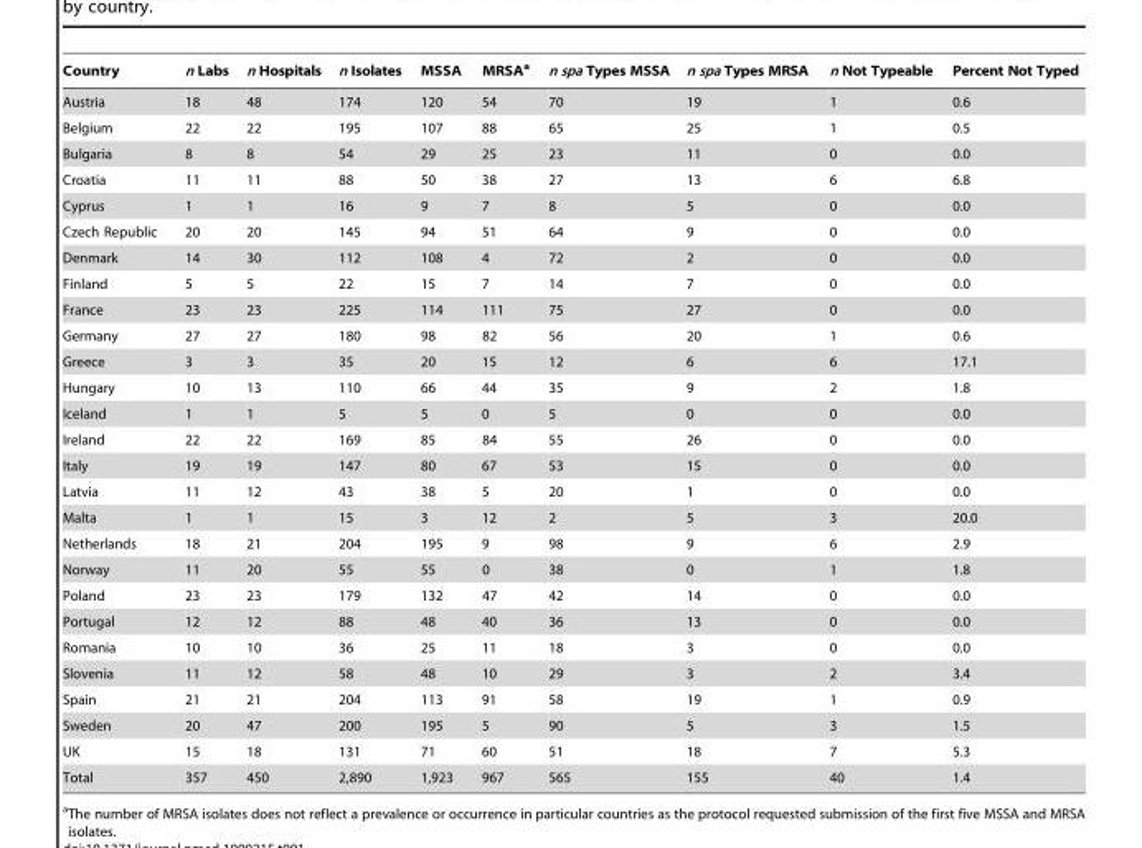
<table><thead><tr><td>Country</td><td>n Labs</td><td>n Hospitals</td><td>n Isolates</td><td>MSSA</td><td>MRSA<sup>a</sup></td><td>n spa Types MSSA</td><td>n spa Types MRSA</td><td>n Not Typeable</td><td>Percent Not Typed</td></tr></thead><tbody><tr><td>Austria</td><td>18</td><td>48</td><td>174</td><td>120</td><td>54</td><td>70</td><td>19</td><td>1</td><td>0.6</td></tr><tr><td>Belgium</td><td>22</td><td>22</td><td>195</td><td>107</td><td>88</td><td>65</td><td>25</td><td>1</td><td>0.5</td></tr><tr><td>Bulgaria</td><td>8</td><td>8</td><td>54</td><td>29</td><td>25</td><td>23</td><td>11</td><td>0</td><td>0.0</td></tr><tr><td>Croatia</td><td>11</td><td>11</td><td>88</td><td>50</td><td>38</td><td>27</td><td>13</td><td>6</td><td>6.8</td></tr><tr><td>Cyprus</td><td>1</td><td>1</td><td>16</td><td>9</td><td>7</td><td>8</td><td>5</td><td>0</td><td>0.0</td></tr><tr><td>Czech Republic</td><td>20</td><td>20</td><td>145</td><td>94</td><td>51</td><td>64</td><td>9</td><td>0</td><td>0.0</td></tr><tr><td>Denmark</td><td>14</td><td>30</td><td>112</td><td>108</td><td>4</td><td>72</td><td>2</td><td>0</td><td>0.0</td></tr><tr><td>Finland</td><td>5</td><td>5</td><td>22</td><td>15</td><td>7</td><td>14</td><td>7</td><td>0</td><td>0.0</td></tr><tr><td>France</td><td>23</td><td>23</td><td>225</td><td>114</td><td>111</td><td>75</td><td>27</td><td>0</td><td>0.0</td></tr><tr><td>Germany</td><td>27</td><td>27</td><td>180</td><td>98</td><td>82</td><td>56</td><td>20</td><td>1</td><td>0.6</td></tr><tr><td>Greece</td><td>3</td><td>3</td><td>35</td><td>20</td><td>15</td><td>12</td><td>6</td><td>6</td><td>17.1</td></tr><tr><td>Hungary</td><td>10</td><td>13</td><td>110</td><td>66</td><td>44</td><td>35</td><td>9</td><td>2</td><td>1.8</td></tr><tr><td>Iceland</td><td>1</td><td>1</td><td>5</td><td>5</td><td>0</td><td>5</td><td>0</td><td>0</td><td>0.0</td></tr><tr><td>Ireland</td><td>22</td><td>22</td><td>169</td><td>85</td><td>84</td><td>55</td><td>26</td><td>0</td><td>0.0</td></tr><tr><td>Italy</td><td>19</td><td>19</td><td>147</td><td>80</td><td>67</td><td>53</td><td>15</td><td>0</td><td>0.0</td></tr><tr><td>Latvia</td><td>11</td><td>12</td><td>43</td><td>38</td><td>5</td><td>20</td><td>1</td><td>0</td><td>0.0</td></tr><tr><td>Malta</td><td>1</td><td>1</td><td>15</td><td>3</td><td>12</td><td>2</td><td>5</td><td>3</td><td>20.0</td></tr><tr><td>Netherlands</td><td>18</td><td>21</td><td>204</td><td>195</td><td>9</td><td>98</td><td>9</td><td>6</td><td>2.9</td></tr><tr><td>Norway</td><td>11</td><td>20</td><td>55</td><td>55</td><td>0</td><td>38</td><td>0</td><td>1</td><td>1.8</td></tr><tr><td>Poland</td><td>23</td><td>23</td><td>179</td><td>132</td><td>47</td><td>42</td><td>14</td><td>0</td><td>0.0</td></tr><tr><td>Portugal</td><td>12</td><td>12</td><td>88</td><td>48</td><td>40</td><td>36</td><td>13</td><td>0</td><td>0.0</td></tr><tr><td>Romania</td><td>10</td><td>10</td><td>36</td><td>25</td><td>11</td><td>18</td><td>3</td><td>0</td><td>0.0</td></tr><tr><td>Slovenia</td><td>11</td><td>12</td><td>58</td><td>48</td><td>10</td><td>29</td><td>3</td><td>2</td><td>3.4</td></tr><tr><td>Spain</td><td>21</td><td>21</td><td>204</td><td>113</td><td>91</td><td>58</td><td>19</td><td>1</td><td>0.9</td></tr><tr><td>Sweden</td><td>20</td><td>47</td><td>200</td><td>195</td><td>5</td><td>90</td><td>5</td><td>3</td><td>1.5</td></tr><tr><td>UK</td><td>15</td><td>18</td><td>131</td><td>71</td><td>60</td><td>51</td><td>18</td><td>7</td><td>5.3</td></tr><tr><td>Total</td><td>357</td><td>450</td><td>2,890</td><td>1,923</td><td>967</td><td>565</td><td>155</td><td>40</td><td>1.4</td></tr></tbody></table>